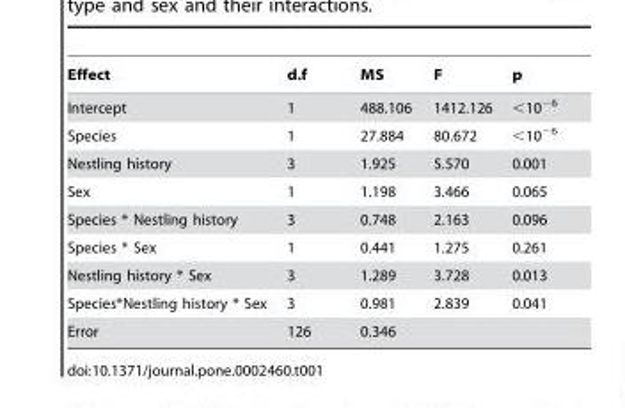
<table><thead><tr><td>Effect</td><td>d.f</td><td>MS</td><td>F</td><td>p</td></tr></thead><tbody><tr><td>Intercept</td><td>1</td><td>488.106</td><td>1412.126</td><td>&lt;10<sup>−6</sup></td></tr><tr><td>Species</td><td>1</td><td>27.884</td><td>80.672</td><td>&lt;10<sup>−6</sup></td></tr><tr><td>Nestling history</td><td>3</td><td>1.925</td><td>5.570</td><td>0.001</td></tr><tr><td>Sex</td><td>1</td><td>1.198</td><td>3.466</td><td>0.065</td></tr><tr><td>Species * Nestling history</td><td>3</td><td>0.748</td><td>2.163</td><td>0.096</td></tr><tr><td>Species * Sex</td><td>1</td><td>0.441</td><td>1.275</td><td>0.261</td></tr><tr><td>Nestling history * Sex</td><td>3</td><td>1.289</td><td>3.728</td><td>0.013</td></tr><tr><td>Species*Nestling history * Sex</td><td>3</td><td>0.981</td><td>2.839</td><td>0.041</td></tr><tr><td>Error</td><td>126</td><td>0.346</td><td></td><td></td></tr></tbody></table>